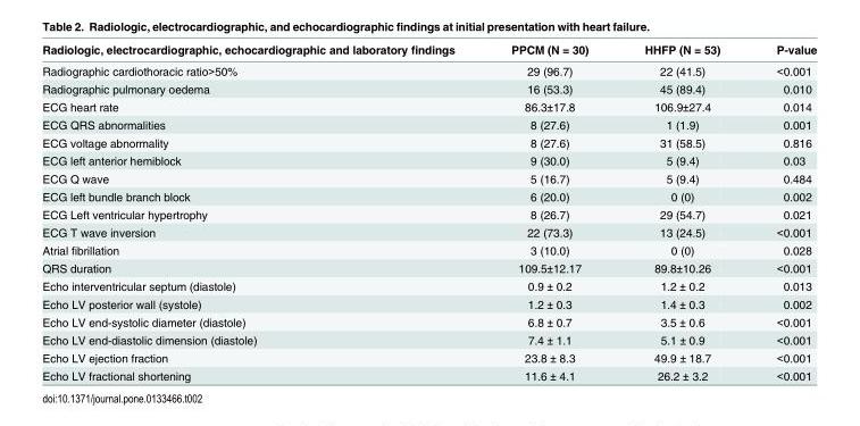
<table><thead><tr><td>Radiologic, electrocardiographic, echocardiographic and laboratory findings</td><td>PPCM (N = 30)</td><td>HHFP (N = 53)</td><td>P-value</td></tr></thead><tbody><tr><td>Radiographic cardiothoracic ratio&gt;50%</td><td>29 (96.7)</td><td>22 (41.5)</td><td>&lt;0.001</td></tr><tr><td>Radiographic pulmonary oedema</td><td>16 (53.3)</td><td>45 (89.4)</td><td>0.010</td></tr><tr><td>ECG heart rate</td><td>86.3±17.8</td><td>106.9±27.4</td><td>0.014</td></tr><tr><td>ECG QRS abnormalities</td><td>8 (27.6)</td><td>1 (1.9)</td><td>0.001</td></tr><tr><td>ECG voltage abnormality</td><td>8 (27.6)</td><td>31 (58.5)</td><td>0.816</td></tr><tr><td>ECG left anterior hemiblock</td><td>9 (30.0)</td><td>5 (9.4)</td><td>0.03</td></tr><tr><td>ECG Q wave</td><td>5 (16.7)</td><td>5 (9.4)</td><td>0.484</td></tr><tr><td>ECG left bundle branch block</td><td>6 (20.0)</td><td>0 (0)</td><td>0.002</td></tr><tr><td>ECG Left ventricular hypertrophy</td><td>8 (26.7)</td><td>29 (54.7)</td><td>0.021</td></tr><tr><td>ECG T wave inversion</td><td>22 (73.3)</td><td>13 (24.5)</td><td>&lt;0.001</td></tr><tr><td>Atrial fibrillation</td><td>3 (10.0)</td><td>0 (0)</td><td>0.028</td></tr><tr><td>QRS duration</td><td>109.5±12.17</td><td>89.8±10.26</td><td>&lt;0.001</td></tr><tr><td>Echo interventricular septum (diastole)</td><td>0.9 ± 0.2</td><td>1.2 ± 0.2</td><td>0.013</td></tr><tr><td>Echo LV posterior wall (systole)</td><td>1.2 ± 0.3</td><td>1.4 ± 0.3</td><td>0.002</td></tr><tr><td>Echo LV end-systolic diameter (diastole)</td><td>6.8 ± 0.7</td><td>3.5 ± 0.6</td><td>&lt;0.001</td></tr><tr><td>Echo LV end-diastolic dimension (diastole)</td><td>7.4 ± 1.1</td><td>5.1 ± 0.9</td><td>&lt;0.001</td></tr><tr><td>Echo LV ejection fraction</td><td>23.8 ± 8.3</td><td>49.9 ± 18.7</td><td>&lt;0.001</td></tr><tr><td>Echo LV fractional shortening</td><td>11.6 ± 4.1</td><td>26.2 ± 3.2</td><td>&lt;0.001</td></tr></tbody></table>